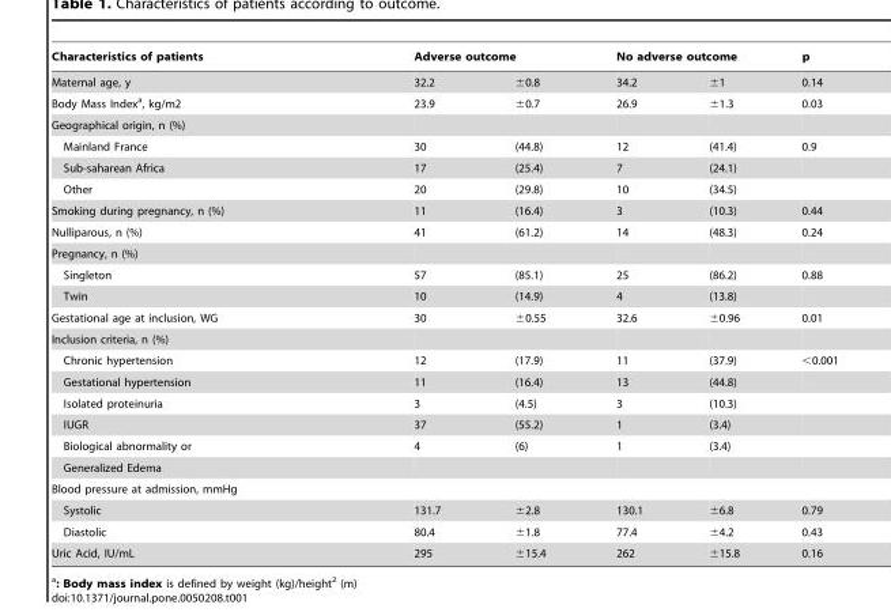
<table><thead><tr><td rowspan="2">Characteristics of patients Maternal age, y</td><td colspan="2">Adverse outcome</td><td colspan="2">No adverse outcome</td><td rowspan="2">p 0.14</td></tr><tr><td>32.2</td><td>±0.8</td><td>34.2</td><td>±1</td></tr></thead><tbody><tr><td>Body Mass Index<sup>a</sup>, kg/m2</td><td>23.9</td><td>±0.7</td><td>26.9</td><td>±1.3</td><td>0.03</td></tr><tr><td colspan="6">Geographical origin, n (%)</td></tr><tr><td>Mainland France</td><td>30</td><td>(44.8)</td><td>12</td><td>(41.4)</td><td>0.9</td></tr><tr><td>Sub-saharean Africa</td><td>17</td><td>(25.4)</td><td>7</td><td>(24.1)</td><td></td></tr><tr><td>Other</td><td>20</td><td>(29.8)</td><td>10</td><td>(34.5)</td><td></td></tr><tr><td>Smoking during pregnancy, n (%)</td><td>11</td><td>(16.4)</td><td>3</td><td>(10.3)</td><td>0.44</td></tr><tr><td>Nulliparous, n (%)</td><td>41</td><td>(61.2)</td><td>14</td><td>(48.3)</td><td>0.24</td></tr><tr><td colspan="6">Pregnancy, n (%)</td></tr><tr><td>Singleton</td><td>57</td><td>(85.1)</td><td>25</td><td>(86.2)</td><td>0.88</td></tr><tr><td>Twin</td><td>10</td><td>(14.9)</td><td>4</td><td>(13.8)</td><td></td></tr><tr><td>Gestational age at inclusion, WG</td><td>30</td><td>±0.55</td><td>32.6</td><td>±0.96</td><td>0.01</td></tr><tr><td colspan="6">Inclusion criteria, n (%)</td></tr><tr><td>Chronic hypertension</td><td>12</td><td>(17.9)</td><td>11</td><td>(37.9)</td><td>&lt;0.001</td></tr><tr><td>Gestational hypertension</td><td>11</td><td>(16.4)</td><td>13</td><td>(44.8)</td><td></td></tr><tr><td>Isolated proteinuria</td><td>3</td><td>(4.5)</td><td>3</td><td>(10.3)</td><td></td></tr><tr><td>IUGR</td><td>37</td><td>(55.2)</td><td>1</td><td>(3.4)</td><td></td></tr><tr><td>Biological abnormality or</td><td>4</td><td>(6)</td><td>1</td><td>(3.4)</td><td></td></tr><tr><td colspan="6">Generalized Edema</td></tr><tr><td colspan="6">Blood pressure at admission, mmHg</td></tr><tr><td>Systolic</td><td>131.7</td><td>±2.8</td><td>130.1</td><td>±6.8</td><td>0.79</td></tr><tr><td>Diastolic</td><td>80.4</td><td>±1.8</td><td>77.4</td><td>±4.2</td><td>0.43</td></tr><tr><td>Uric Acid, IU/mL</td><td>295</td><td>±15.4</td><td>262</td><td>±15.8</td><td>0.16</td></tr></tbody></table>